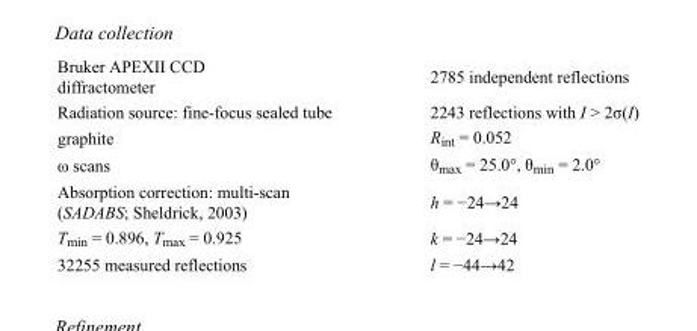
<table><tbody><tr><td>Bruker APEXII CCD diffractometer</td><td>2785 independent reflections</td></tr><tr><td>Radiation source: fine-focus sealed tube</td><td>2243 reflections with I &gt; 2σ(I)</td></tr><tr><td>graphite</td><td>R<sub>int</sub> = 0.052</td></tr><tr><td>ω scans</td><td>θ<sub>max</sub> = 25.0°, θ<sub>min</sub> = 2.0°</td></tr><tr><td>Absorption correction: multi-scan (SADABS; Sheldrick, 2003)</td><td>h = −24→24</td></tr><tr><td>T<sub>min</sub> = 0.896, T<sub>max</sub> = 0.925</td><td>k = −24→24</td></tr><tr><td>32255 measured reflections</td><td>l = −44→42</td></tr></tbody></table>